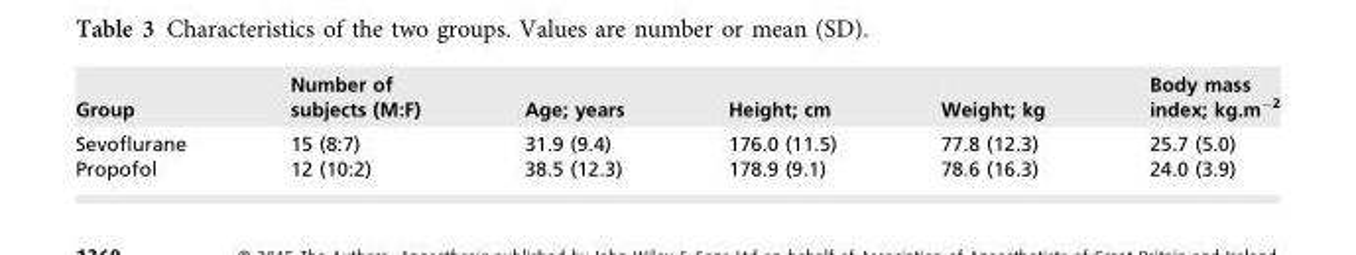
<table><thead><tr><td>Group</td><td>Number of subjects (M:F)</td><td>Age; years</td><td>Height; cm</td><td>Weight; kg</td><td>Body mass index; kg.m<sup>−2</sup></td></tr></thead><tbody><tr><td>Sevoflurane</td><td>15 (8:7)</td><td>31.9 (9.4)</td><td>176.0 (11.5)</td><td>77.8 (12.3)</td><td>25.7 (5.0)</td></tr><tr><td>Propofol</td><td>12 (10:2)</td><td>38.5 (12.3)</td><td>178.9 (9.1)</td><td>78.6 (16.3)</td><td>24.0 (3.9)</td></tr></tbody></table>